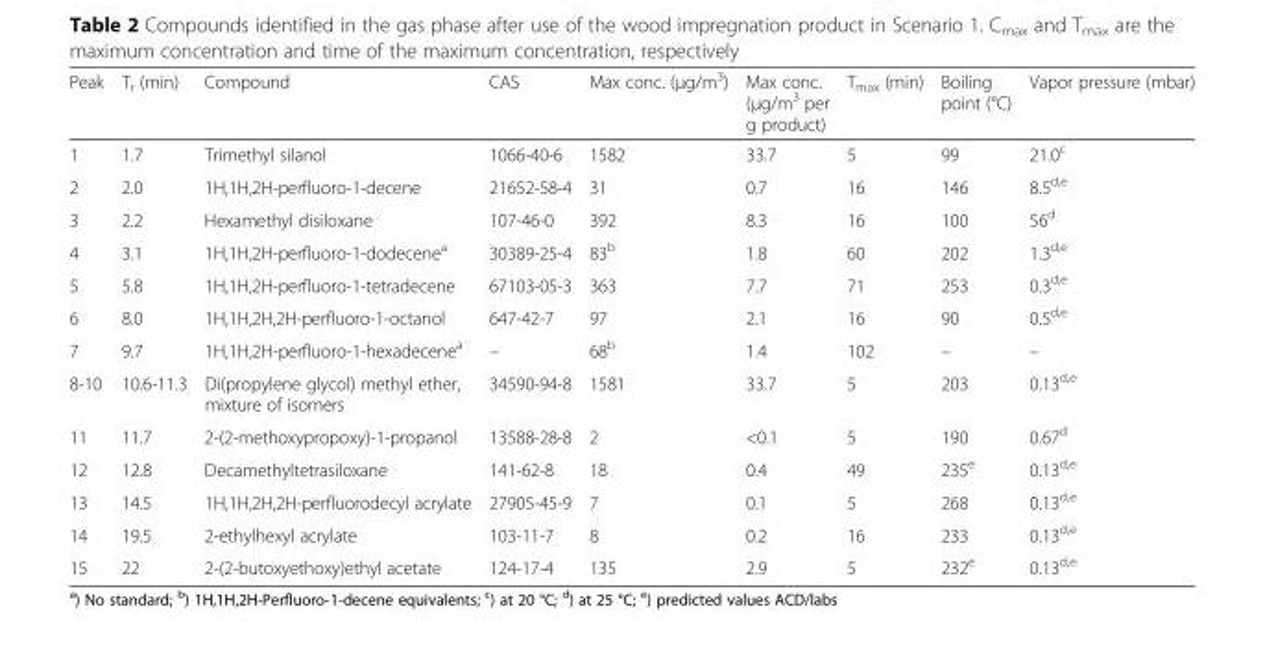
<table><thead><tr><td>Peak</td><td>T<sub>r</sub> (min)</td><td>Compound</td><td>CAS</td><td>Max conc. (μg/m<sup>3</sup>)</td><td>Max conc. (μg/m<sup>3</sup> per g product)</td><td>T<sub>max</sub> (min)</td><td>Boiling point (°C)</td><td>Vapor pressure (mbar)</td></tr></thead><tbody><tr><td>1</td><td>1.7</td><td>Trimethyl silanol</td><td>1066-40-6</td><td>1582</td><td>33.7</td><td>5</td><td>99</td><td>21.0<sup>c</sup></td></tr><tr><td>2</td><td>2.0</td><td>1H,1H,2H-perfluoro-1-decene</td><td>21652-58-4</td><td>31</td><td>0.7</td><td>16</td><td>146</td><td>8.5<sup>d,e</sup></td></tr><tr><td>3</td><td>2.2</td><td>Hexamethyl disiloxane</td><td>107-46-0</td><td>392</td><td>8.3</td><td>16</td><td>100</td><td>56<sup>d</sup></td></tr><tr><td>4</td><td>3.1</td><td>1H,1H,2H-perfluoro-1-dodecene<sup>a</sup></td><td>30389-25-4</td><td>83<sup>b</sup></td><td>1.8</td><td>60</td><td>202</td><td>1.3<sup>d,e</sup></td></tr><tr><td>5</td><td>5.8</td><td>1H,1H,2H-perfluoro-1-tetradecene</td><td>67103-05-3</td><td>363</td><td>7.7</td><td>71</td><td>253</td><td>0.3<sup>d,e</sup></td></tr><tr><td>6</td><td>8.0</td><td>1H,1H,2H,2H-perfluoro-1-octanol</td><td>647-42-7</td><td>97</td><td>2.1</td><td>16</td><td>90</td><td>0.5<sup>d,e</sup></td></tr><tr><td>7</td><td>9.7</td><td>1H,1H,2H-perfluoro-1-hexadecene<sup>a</sup></td><td>–</td><td>68<sup>b</sup></td><td>1.4</td><td>102</td><td>–</td><td>–</td></tr><tr><td>8-10</td><td>10.6-11.3</td><td>Di(propylene glycol) methyl ether, mixture of isomers</td><td>34590-94-8</td><td>1581</td><td>33.7</td><td>5</td><td>203</td><td>0.13<sup>d,e</sup></td></tr><tr><td>11</td><td>11.7</td><td>2-(2-methoxypropoxy)-1-propanol</td><td>13588-28-8</td><td>2</td><td>&lt;0.1</td><td>5</td><td>190</td><td>0.67<sup>d</sup></td></tr><tr><td>12</td><td>12.8</td><td>Decamethyltetrasiloxane</td><td>141-62-8</td><td>18</td><td>0.4</td><td>49</td><td>235<sup>e</sup></td><td>0.13<sup>d,e</sup></td></tr><tr><td>13</td><td>14.5</td><td>1H,1H,2H,2H-perfluorodecyl acrylate</td><td>27905-45-9</td><td>7</td><td>0.1</td><td>5</td><td>268</td><td>0.13<sup>d,e</sup></td></tr><tr><td>14</td><td>19.5</td><td>2-ethylhexyl acrylate</td><td>103-11-7</td><td>8</td><td>0.2</td><td>16</td><td>233</td><td>0.13<sup>d,e</sup></td></tr><tr><td>15</td><td>22</td><td>2-(2-butoxyethoxy)ethyl acetate</td><td>124-17-4</td><td>135</td><td>2.9</td><td>5</td><td>232<sup>e</sup></td><td>0.13<sup>d,e</sup></td></tr></tbody></table>